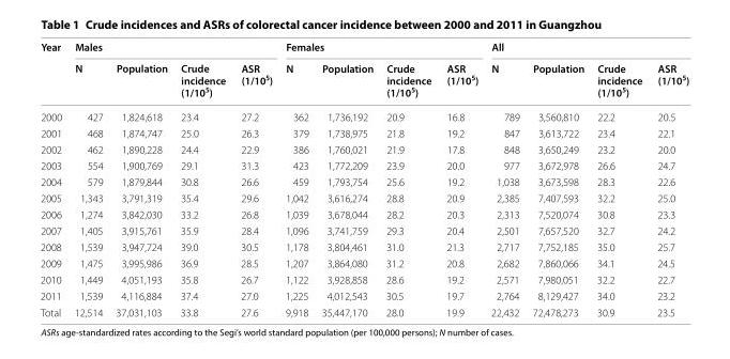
<table><thead><tr><td rowspan="2">Year</td><td colspan="4">Males</td><td colspan="4">Females</td><td colspan="4">All</td></tr><tr><td>N</td><td>Population</td><td>Crude incidence (1/10<sup>5</sup>)</td><td>ASR (1/10<sup>5</sup>)</td><td>N</td><td>Population</td><td>Crude incidence (1/10<sup>5</sup>)</td><td>ASR (1/10<sup>5</sup>)</td><td>N</td><td>Population</td><td>Crude incidence (1/10<sup>5</sup>)</td><td>ASR (1/10<sup>5</sup>)</td></tr></thead><tbody><tr><td>2000</td><td>427</td><td>1,824,618</td><td>23.4</td><td>27.2</td><td>362</td><td>1,736,192</td><td>20.9</td><td>16.8</td><td>789</td><td>3,560,810</td><td>22.2</td><td>20.5</td></tr><tr><td>2001</td><td>468</td><td>1,874,747</td><td>25.0</td><td>26.3</td><td>379</td><td>1,738,975</td><td>21.8</td><td>19.2</td><td>847</td><td>3,613,722</td><td>23.4</td><td>22.1</td></tr><tr><td>2002</td><td>462</td><td>1,890,228</td><td>24.4</td><td>22.9</td><td>386</td><td>1,760,021</td><td>21.9</td><td>17.8</td><td>848</td><td>3,650,249</td><td>23.2</td><td>20.0</td></tr><tr><td>2003</td><td>554</td><td>1,900,769</td><td>29.1</td><td>31.3</td><td>423</td><td>1,772,209</td><td>23.9</td><td>20.0</td><td>977</td><td>3,672,978</td><td>26.6</td><td>24.7</td></tr><tr><td>2004</td><td>579</td><td>1,879,844</td><td>30.8</td><td>26.6</td><td>459</td><td>1,793,754</td><td>25.6</td><td>19.2</td><td>1,038</td><td>3,673,598</td><td>28.3</td><td>22.6</td></tr><tr><td>2005</td><td>1,343</td><td>3,791,319</td><td>35.4</td><td>29.6</td><td>1,042</td><td>3,616,274</td><td>28.8</td><td>20.9</td><td>2,385</td><td>7,407,593</td><td>32.2</td><td>25.0</td></tr><tr><td>2006</td><td>1,274</td><td>3,842,030</td><td>33.2</td><td>26.8</td><td>1,039</td><td>3,678,044</td><td>28.2</td><td>20.3</td><td>2,313</td><td>7,520,074</td><td>30.8</td><td>23.3</td></tr><tr><td>2007</td><td>1,405</td><td>3,915,761</td><td>35.9</td><td>28.4</td><td>1,096</td><td>3,741,759</td><td>29.3</td><td>20.4</td><td>2,501</td><td>7,657,520</td><td>32.7</td><td>24.2</td></tr><tr><td>2008</td><td>1,539</td><td>3,947,724</td><td>39.0</td><td>30.5</td><td>1,178</td><td>3,804,461</td><td>31.0</td><td>21.3</td><td>2,717</td><td>7,752,185</td><td>35.0</td><td>25.7</td></tr><tr><td>2009</td><td>1,475</td><td>3,995,986</td><td>36.9</td><td>28.5</td><td>1,207</td><td>3,864,080</td><td>31.2</td><td>20.8</td><td>2,682</td><td>7,860,066</td><td>34.1</td><td>24.5</td></tr><tr><td>2010</td><td>1,449</td><td>4,051,193</td><td>35.8</td><td>26.7</td><td>1,122</td><td>3,928,858</td><td>28.6</td><td>19.2</td><td>2,571</td><td>7,980,051</td><td>32.2</td><td>22.7</td></tr><tr><td>2011</td><td>1,539</td><td>4,116,884</td><td>37.4</td><td>27.0</td><td>1,225</td><td>4,012,543</td><td>30.5</td><td>19.7</td><td>2,764</td><td>8,129,427</td><td>34.0</td><td>23.2</td></tr><tr><td>Total</td><td>12,514</td><td>37,031,103</td><td>33.8</td><td>27.6</td><td>9,918</td><td>35,447,170</td><td>28.0</td><td>19.9</td><td>22,432</td><td>72,478,273</td><td>30.9</td><td>23.5</td></tr></tbody></table>